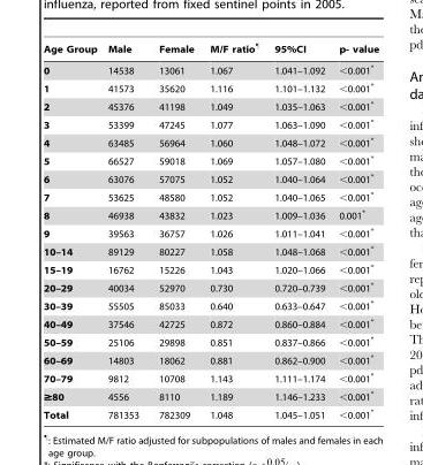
<table><thead><tr><td>Age Group</td><td>Male</td><td>Female</td><td>M/F ratio¶</td><td>95%CI</td><td>p- value</td></tr></thead><tbody><tr><td>0</td><td>14538</td><td>13061</td><td>1.067</td><td>1.041–1.092</td><td>&lt;0.001*</td></tr><tr><td>1</td><td>41573</td><td>35620</td><td>1.116</td><td>1.101–1.132</td><td>&lt;0.001*</td></tr><tr><td>2</td><td>45376</td><td>41198</td><td>1.049</td><td>1.035–1.063</td><td>&lt;0.001*</td></tr><tr><td>3</td><td>53399</td><td>47245</td><td>1.077</td><td>1.063–1.090</td><td>&lt;0.001*</td></tr><tr><td>4</td><td>63485</td><td>56964</td><td>1.060</td><td>1.048–1.072</td><td>&lt;0.001*</td></tr><tr><td>5</td><td>66527</td><td>59018</td><td>1.069</td><td>1.057–1.080</td><td>&lt;0.001*</td></tr><tr><td>6</td><td>63076</td><td>57075</td><td>1.052</td><td>1.040–1.064</td><td>&lt;0.001*</td></tr><tr><td>7</td><td>53625</td><td>48580</td><td>1.052</td><td>1.040–1.065</td><td>&lt;0.001*</td></tr><tr><td>8</td><td>46938</td><td>43832</td><td>1.023</td><td>1.009–1.036</td><td>0.001*</td></tr><tr><td>9</td><td>39563</td><td>36757</td><td>1.026</td><td>1.011–1.041</td><td>&lt;0.001*</td></tr><tr><td>10–14</td><td>89129</td><td>80227</td><td>1.058</td><td>1.048–1.068</td><td>&lt;0.001*</td></tr><tr><td>15–19</td><td>16762</td><td>15226</td><td>1.043</td><td>1.020–1.066</td><td>&lt;0.001*</td></tr><tr><td>20–29</td><td>40034</td><td>52970</td><td>0.730</td><td>0.720–0.739</td><td>&lt;0.001*</td></tr><tr><td>30–39</td><td>55505</td><td>85033</td><td>0.640</td><td>0.633–0.647</td><td>&lt;0.001*</td></tr><tr><td>40–49</td><td>37546</td><td>42725</td><td>0.872</td><td>0.860–0.884</td><td>&lt;0.001*</td></tr><tr><td>50–59</td><td>25106</td><td>29898</td><td>0.851</td><td>0.837–0.866</td><td>&lt;0.001*</td></tr><tr><td>60–69</td><td>14803</td><td>18062</td><td>0.881</td><td>0.862–0.900</td><td>&lt;0.001*</td></tr><tr><td>70–79</td><td>9812</td><td>10708</td><td>1.143</td><td>1.111–1.174</td><td>&lt;0.001*</td></tr><tr><td>≥80</td><td>4556</td><td>8110</td><td>1.189</td><td>1.146–1.233</td><td>&lt;0.001*</td></tr><tr><td>Total</td><td>781353</td><td>782309</td><td>1.048</td><td>1.045–1.051</td><td>&lt;0.001*</td></tr></tbody></table>